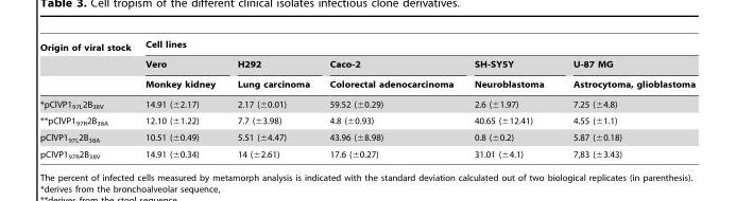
<table><thead><tr><td rowspan="3">Origin of viral stock</td><td colspan="5">Cell lines</td></tr><tr><td rowspan="2">Vero Monkey kidney</td><td rowspan="2">H292 Lung carcinoma</td><td rowspan="2">Caco-2 Colorectal adenocarcinoma</td><td rowspan="2">SH-SY5Y Neuroblastoma</td><td rowspan="2">U-87 MG Astrocytoma, glioblastoma</td></tr><tr></tr></thead><tbody><tr><td>*pClVP1<sub>97L</sub>2B<sub>38V</sub></td><td>14.91 (±2.17)</td><td>2.17 (±0.01)</td><td>59.52 (±0.29)</td><td>2.6 (±1.97)</td><td>7.25 (±4.8)</td></tr><tr><td>**pClVP1<sub>97R</sub>2B<sub>38A</sub></td><td>12.10 (±1.22)</td><td>7.7 (±3.98)</td><td>4.8 (±0.93)</td><td>40.65 (±12.41)</td><td>4.55 (±1.1)</td></tr><tr><td>pClVP1<sub>97L</sub>2B<sub>38A</sub></td><td>10.51 (±0.49)</td><td>5.51 (±4.47)</td><td>43.96 (±8.98)</td><td>0.8 (±0.2)</td><td>5.87 (±0.18)</td></tr><tr><td>pClVP1<sub>97R</sub>2B<sub>38V</sub></td><td>14.91 (±0.34)</td><td>14 (±2.61)</td><td>17.6 (±0.27)</td><td>31.01 (±4.1)</td><td>7,83 (±3.43)</td></tr></tbody></table>